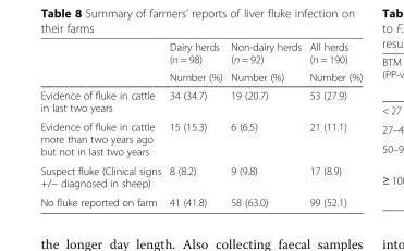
<table><thead><tr><td rowspan="2"></td><td rowspan="2">Dairy herds (n = 98) Number (%)</td><td rowspan="2">Non-dairy herds (n = 92) Number (%)</td><td rowspan="2">All herds (n = 190) Number (%)</td></tr><tr></tr></thead><tbody><tr><td>Evidence of fluke in cattle in last two years</td><td>34 (34.7)</td><td>19 (20.7)</td><td>53 (27.9)</td></tr><tr><td>Evidence of fluke in cattle more than two years ago but not in last two years</td><td>15 (15.3)</td><td>6 (6.5)</td><td>21 (11.1)</td></tr><tr><td>Suspect fluke (Clinical signs +/− diagnosed in sheep)</td><td>8 (8.2)</td><td>9 (9.8)</td><td>17 (8.9)</td></tr><tr><td>No fluke reported on farm</td><td>41 (41.8)</td><td>58 (63.0)</td><td>99 (52.1)</td></tr></tbody></table>